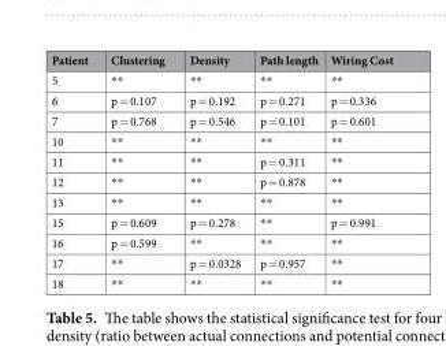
<table><thead><tr><td>Patient</td><td>Clustering</td><td>Density</td><td>Path length</td><td>Wiring Cost</td></tr></thead><tbody><tr><td>5</td><td>**</td><td>**</td><td>**</td><td>**</td></tr><tr><td>6</td><td>p = 0.107</td><td>p = 0.192</td><td>p = 0.271</td><td>p = 0.336</td></tr><tr><td>7</td><td>p = 0.768</td><td>p = 0.546</td><td>p = 0.101</td><td>p = 0.601</td></tr><tr><td>10</td><td>**</td><td>**</td><td>**</td><td>**</td></tr><tr><td>11</td><td>**</td><td>**</td><td>p = 0.311</td><td>**</td></tr><tr><td>12</td><td>**</td><td>**</td><td>p = 0.878</td><td>**</td></tr><tr><td>13</td><td>**</td><td>**</td><td>**</td><td>**</td></tr><tr><td>15</td><td>p = 0.609</td><td>p = 0.278</td><td>**</td><td>p = 0.991</td></tr><tr><td>16</td><td>p = 0.599</td><td>**</td><td>**</td><td>**</td></tr><tr><td>17</td><td>**</td><td>p = 0.0328</td><td>p = 0.957</td><td>**</td></tr><tr><td>18</td><td>**</td><td>**</td><td>**</td><td>**</td></tr></tbody></table>